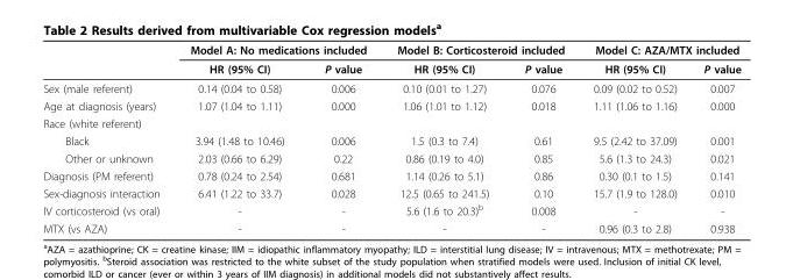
<table><thead><tr><td rowspan="2"></td><td colspan="2">Model A: No medications included</td><td colspan="2">Model B: Corticosteroid included</td><td colspan="2">Model C: AZA/MTX included</td></tr><tr><td>HR (95% CI)</td><td>P value</td><td>HR (95% CI)</td><td>P value</td><td>HR (95% CI)</td><td>P value</td></tr></thead><tbody><tr><td>Sex (male referent)</td><td>0.14 (0.04 to 0.58)</td><td>0.006</td><td>0.10 (0.01 to 1.27)</td><td>0.076</td><td>0.09 (0.02 to 0.52)</td><td>0.007</td></tr><tr><td>Age at diagnosis (years)</td><td>1.07 (1.04 to 1.11)</td><td>0.000</td><td>1.06 (1.01 to 1.12)</td><td>0.018</td><td>1.11 (1.06 to 1.16)</td><td>0.000</td></tr><tr><td colspan="7">Race (white referent)</td></tr><tr><td>Black</td><td>3.94 (1.48 to 10.46)</td><td>0.006</td><td>1.5 (0.3 to 7.4)</td><td>0.61</td><td>9.5 (2.42 to 37.09)</td><td>0.001</td></tr><tr><td>Other or unknown</td><td>2.03 (0.66 to 6.29)</td><td>0.22</td><td>0.86 (0.19 to 4.0)</td><td>0.85</td><td>5.6 (1.3 to 24.3)</td><td>0.021</td></tr><tr><td>Diagnosis (PM referent)</td><td>0.78 (0.24 to 2.54)</td><td>0.681</td><td>1.14 (0.26 to 5.1)</td><td>0.86</td><td>0.30 (0.1 to 1.5)</td><td>0.141</td></tr><tr><td>Sex-diagnosis interaction</td><td>6.41 (1.22 to 33.7)</td><td>0.028</td><td>12.5 (0.65 to 241.5)</td><td>0.10</td><td>15.7 (1.9 to 128.0)</td><td>0.010</td></tr><tr><td>IV corticosteroid (vs oral)</td><td>-</td><td>-</td><td>5.6 (1.6 to 20.3)<sup>b</sup></td><td>0.008</td><td>-</td><td>-</td></tr><tr><td>MTX (vs AZA)</td><td>-</td><td>-</td><td>-</td><td>-</td><td>0.96 (0.3 to 2.8)</td><td>0.938</td></tr></tbody></table>